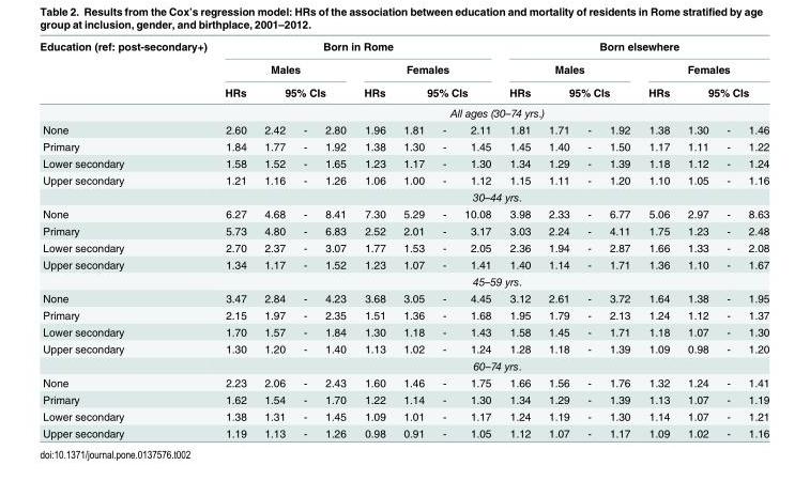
<table><thead><tr><td rowspan="5">Education (ref: post-secondary+) None</td><td colspan="8">Born in Rome</td><td colspan="8">Born elsewhere</td></tr><tr><td colspan="4">Males</td><td colspan="4">Females</td><td colspan="4">Males</td><td colspan="4">Females</td></tr><tr><td>HRs</td><td colspan="3">95% CIs</td><td>HRs</td><td colspan="3">95% CIs</td><td>HRs</td><td colspan="3">95% CIs</td><td>HRs</td><td colspan="3">95% CIs</td></tr><tr><td colspan="16">All ages (30–74 yrs.)</td></tr><tr><td>2.60</td><td>2.42</td><td>-</td><td>2.80</td><td>1.96</td><td>1.81</td><td>-</td><td>2.11</td><td>1.81</td><td>1.71</td><td>-</td><td>1.92</td><td>1.38</td><td>1.30</td><td>-</td><td>1.46</td></tr></thead><tbody><tr><td>Primary</td><td>1.84</td><td>1.77</td><td>-</td><td>1.92</td><td>1.38</td><td>1.30</td><td>-</td><td>1.45</td><td>1.45</td><td>1.40</td><td>-</td><td>1.50</td><td>1.17</td><td>1.11</td><td>-</td><td>1.22</td></tr><tr><td>Lower secondary</td><td>1.58</td><td>1.52</td><td>-</td><td>1.65</td><td>1.23</td><td>1.17</td><td>-</td><td>1.30</td><td>1.34</td><td>1.29</td><td>-</td><td>1.39</td><td>1.18</td><td>1.12</td><td>-</td><td>1.24</td></tr><tr><td rowspan="2">Upper secondary</td><td>1.21</td><td>1.16</td><td>-</td><td>1.26</td><td>1.06</td><td>1.00</td><td>-</td><td>1.12</td><td>1.15</td><td>1.11</td><td>-</td><td>1.20</td><td>1.10</td><td>1.05</td><td>-</td><td>1.16</td></tr><tr><td colspan="16">30–44 yrs.</td></tr><tr><td>None</td><td>6.27</td><td>4.68</td><td>-</td><td>8.41</td><td>7.30</td><td>5.29</td><td>-</td><td>10.08</td><td>3.98</td><td>2.33</td><td>-</td><td>6.77</td><td>5.06</td><td>2.97</td><td>-</td><td>8.63</td></tr><tr><td>Primary</td><td>5.73</td><td>4.80</td><td>-</td><td>6.83</td><td>2.52</td><td>2.01</td><td>-</td><td>3.17</td><td>3.03</td><td>2.24</td><td>-</td><td>4.11</td><td>1.75</td><td>1.23</td><td>-</td><td>2.48</td></tr><tr><td>Lower secondary</td><td>2.70</td><td>2.37</td><td>-</td><td>3.07</td><td>1.77</td><td>1.53</td><td>-</td><td>2.05</td><td>2.36</td><td>1.94</td><td>-</td><td>2.87</td><td>1.66</td><td>1.33</td><td>-</td><td>2.08</td></tr><tr><td rowspan="2">Upper secondary</td><td>1.34</td><td>1.17</td><td>-</td><td>1.52</td><td>1.23</td><td>1.07</td><td>-</td><td>1.41</td><td>1.40</td><td>1.14</td><td>-</td><td>1.71</td><td>1.36</td><td>1.10</td><td>-</td><td>1.67</td></tr><tr><td colspan="16">45–59 yrs.</td></tr><tr><td>None</td><td>3.47</td><td>2.84</td><td>-</td><td>4.23</td><td>3.68</td><td>3.05</td><td>-</td><td>4.45</td><td>3.12</td><td>2.61</td><td>-</td><td>3.72</td><td>1.64</td><td>1.38</td><td>-</td><td>1.95</td></tr><tr><td>Primary</td><td>2.15</td><td>1.97</td><td>-</td><td>2.35</td><td>1.51</td><td>1.36</td><td>-</td><td>1.68</td><td>1.95</td><td>1.79</td><td>-</td><td>2.13</td><td>1.24</td><td>1.12</td><td>-</td><td>1.37</td></tr><tr><td>Lower secondary</td><td>1.70</td><td>1.57</td><td>-</td><td>1.84</td><td>1.30</td><td>1.18</td><td>-</td><td>1.43</td><td>1.58</td><td>1.45</td><td>-</td><td>1.71</td><td>1.18</td><td>1.07</td><td>-</td><td>1.30</td></tr><tr><td rowspan="2">Upper secondary</td><td>1.30</td><td>1.20</td><td>-</td><td>1.40</td><td>1.13</td><td>1.02</td><td>-</td><td>1.24</td><td>1.28</td><td>1.18</td><td>-</td><td>1.39</td><td>1.09</td><td>0.98</td><td>-</td><td>1.20</td></tr><tr><td colspan="16">60–74 yrs.</td></tr><tr><td>None</td><td>2.23</td><td>2.06</td><td>-</td><td>2.43</td><td>1.60</td><td>1.46</td><td>-</td><td>1.75</td><td>1.66</td><td>1.56</td><td>-</td><td>1.76</td><td>1.32</td><td>1.24</td><td>-</td><td>1.41</td></tr><tr><td>Primary</td><td>1.62</td><td>1.54</td><td>-</td><td>1.70</td><td>1.22</td><td>1.14</td><td>-</td><td>1.30</td><td>1.34</td><td>1.29</td><td>-</td><td>1.39</td><td>1.13</td><td>1.07</td><td>-</td><td>1.19</td></tr><tr><td>Lower secondary</td><td>1.38</td><td>1.31</td><td>-</td><td>1.45</td><td>1.09</td><td>1.01</td><td>-</td><td>1.17</td><td>1.24</td><td>1.19</td><td>-</td><td>1.30</td><td>1.14</td><td>1.07</td><td>-</td><td>1.21</td></tr><tr><td>Upper secondary</td><td>1.19</td><td>1.13</td><td>-</td><td>1.26</td><td>0.98</td><td>0.91</td><td>-</td><td>1.05</td><td>1.12</td><td>1.07</td><td>-</td><td>1.17</td><td>1.09</td><td>1.02</td><td>-</td><td>1.16</td></tr></tbody></table>